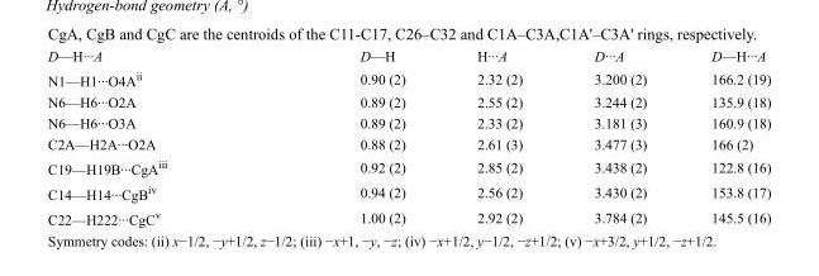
<table><tbody><tr><td>D—H···A</td><td>D—H</td><td>H···A</td><td>D···A</td><td>D—H···A</td></tr><tr><td>N1—H1···O4A<sup>ii</sup></td><td>0.90 (2)</td><td>2.32 (2)</td><td>3.200 (2)</td><td>166.2 (19)</td></tr><tr><td>N6—H6···O2A</td><td>0.89 (2)</td><td>2.55 (2)</td><td>3.244 (2)</td><td>135.9 (18)</td></tr><tr><td>N6—H6···O3A</td><td>0.89 (2)</td><td>2.33 (2)</td><td>3.181 (3)</td><td>160.9 (18)</td></tr><tr><td>C2A—H2A···O2A</td><td>0.88 (2)</td><td>2.61 (3)</td><td>3.477 (3)</td><td>166 (2)</td></tr><tr><td>C19—H19B···CgA<sup>iii</sup></td><td>0.92 (2)</td><td>2.85 (2)</td><td>3.438 (2)</td><td>122.8 (16)</td></tr><tr><td>C14—H14···CgB<sup>iv</sup></td><td>0.94 (2)</td><td>2.56 (2)</td><td>3.430 (2)</td><td>153.8 (17)</td></tr><tr><td>C22—H222···CgC<sup>v</sup></td><td>1.00 (2)</td><td>2.92 (2)</td><td>3.784 (2)</td><td>145.5 (16)</td></tr></tbody></table>